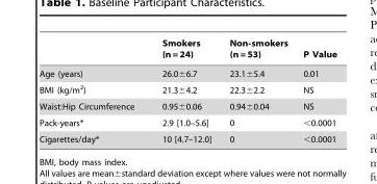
<table><thead><tr><td></td><td>Smokers (n = 24)</td><td>Non-smokers (n = 53)</td><td>P Value</td></tr></thead><tbody><tr><td>Age (years)</td><td>26.0±6.7</td><td>23.1±5.4</td><td>0.01</td></tr><tr><td>BMI (kg/m<sup>2</sup>)</td><td>21.3±4.2</td><td>22.3±2.2</td><td>NS</td></tr><tr><td>Waist:Hip Circumference</td><td>0.95±0.06</td><td>0.94±0.04</td><td>NS</td></tr><tr><td>Pack-years*</td><td>2.9 [1.0–5.6]</td><td>0</td><td>&lt;0.0001</td></tr><tr><td>Cigarettes/day*</td><td>10 [4.7–12.0]</td><td>0</td><td>&lt;0.0001</td></tr></tbody></table>